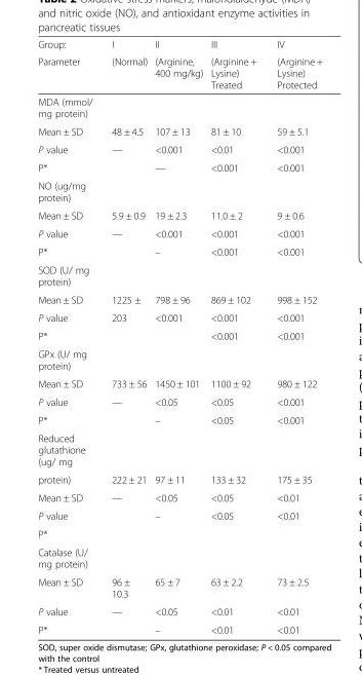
<table><thead><tr><td rowspan="2">Group: Parameter</td><td rowspan="2">I (Normal)</td><td rowspan="2">II (Arginine, 400 mg/kg)</td><td rowspan="2">III (Arginine + Lysine) Treated</td><td rowspan="2">IV (Arginine + Lysine) Protected</td></tr><tr></tr></thead><tbody><tr><td colspan="5">MDA (mmol/ mg protein)</td></tr><tr><td>Mean ± SD</td><td>48 ± 4.5</td><td>107 ± 13</td><td>81 ± 10</td><td>59 ± 5.1</td></tr><tr><td>P value</td><td>—</td><td>&lt;0.001</td><td>&lt;0.01</td><td>&lt;0.001</td></tr><tr><td>P*</td><td></td><td>—</td><td>&lt;0.001</td><td>&lt;0.001</td></tr><tr><td colspan="5">NO (ug/mg protein)</td></tr><tr><td>Mean ± SD</td><td>5.9 ± 0.9</td><td>19 ± 2.3</td><td>11.0 ± 2</td><td>9 ± 0.6</td></tr><tr><td>P value</td><td>—</td><td>&lt;0.001</td><td>&lt;0.001</td><td>&lt;0.001</td></tr><tr><td>P*</td><td></td><td>–</td><td>&lt;0.001</td><td>&lt;0.001</td></tr><tr><td colspan="5">SOD (U/ mg protein)</td></tr><tr><td>Mean ± SD</td><td>1225 ±</td><td>798 ± 96</td><td>869 ± 102</td><td>998 ± 152</td></tr><tr><td>P value</td><td>203</td><td>&lt;0.001</td><td>&lt;0.001</td><td>&lt;0.001</td></tr><tr><td>P*</td><td></td><td></td><td>&lt;0.001</td><td>&lt;0.001</td></tr><tr><td colspan="5">GPx (U/ mg protein)</td></tr><tr><td>Mean ± SD</td><td>733 ± 56</td><td>1450 ± 101</td><td>1100 ± 92</td><td>980 ± 122</td></tr><tr><td>P value</td><td>—</td><td>&lt;0.05</td><td>&lt;0.05</td><td>&lt;0.001</td></tr><tr><td>P*</td><td></td><td>–</td><td>&lt;0.05</td><td>&lt;0.001</td></tr><tr><td colspan="5">Reduced glutathione (ug/ mg</td></tr><tr><td>protein)</td><td>222 ± 21</td><td>97 ± 11</td><td>133 ± 32</td><td>175 ± 35</td></tr><tr><td>Mean ± SD</td><td>—</td><td>&lt;0.05</td><td>&lt;0.05</td><td>&lt;0.01</td></tr><tr><td>P value</td><td></td><td>–</td><td>&lt;0.05</td><td>&lt;0.01</td></tr><tr><td colspan="5">P*</td></tr><tr><td colspan="5">Catalase (U/ mg protein)</td></tr><tr><td>Mean ± SD</td><td>96 ± 10.3</td><td>65 ± 7</td><td>63 ± 2.2</td><td>73 ± 2.5</td></tr><tr><td>P value</td><td>—</td><td>&lt;0.05</td><td>&lt;0.01</td><td>&lt;0.01</td></tr><tr><td>P*</td><td></td><td>–</td><td>&lt;0.01</td><td>&lt;0.01</td></tr></tbody></table>